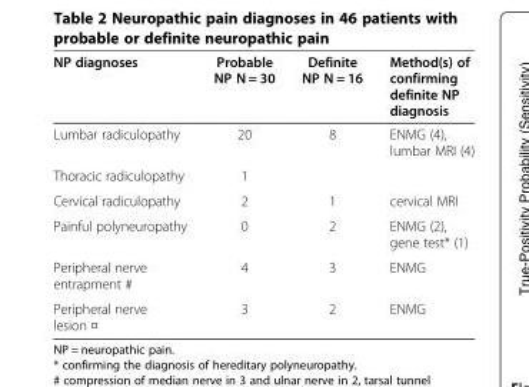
<table><thead><tr><td>NP diagnoses</td><td>Probable NP N = 30</td><td>Definite NP N = 16</td><td>Method(s) of confirming definite NP diagnosis</td></tr></thead><tbody><tr><td>Lumbar radiculopathy</td><td>20</td><td>8</td><td>ENMG (4), lumbar MRI (4)</td></tr><tr><td>Thoracic radiculopathy</td><td>1</td><td></td><td></td></tr><tr><td>Cervical radiculopathy</td><td>2</td><td>1</td><td>cervical MRI</td></tr><tr><td>Painful polyneuropathy</td><td>0</td><td>2</td><td>ENMG (2), gene test* (1)</td></tr><tr><td>Peripheral nerve entrapment #</td><td>4</td><td>3</td><td>ENMG</td></tr><tr><td>Peripheral nerve lesion ¤</td><td>3</td><td>2</td><td>ENMG</td></tr></tbody></table>